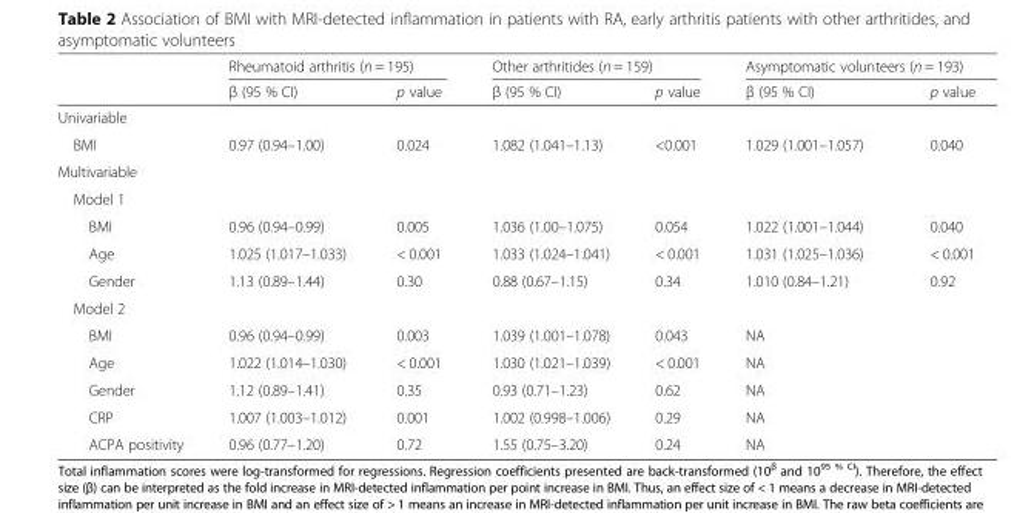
<table><thead><tr><td rowspan="2"></td><td colspan="2">Rheumatoid arthritis (n = 195)</td><td colspan="2">Other arthritides (n = 159)</td><td colspan="2">Asymptomatic volunteers (n = 193)</td></tr><tr><td>β (95 % CI)</td><td>p value</td><td>β (95 % CI)</td><td>p value</td><td>β (95 % CI)</td><td>p value</td></tr></thead><tbody><tr><td colspan="7">Univariable</td></tr><tr><td>BMI</td><td>0.97 (0.94–1.00)</td><td>0.024</td><td>1.082 (1.041–1.13)</td><td>&lt;0.001</td><td>1.029 (1.001–1.057)</td><td>0.040</td></tr><tr><td colspan="7">Multivariable</td></tr><tr><td colspan="7">Model 1</td></tr><tr><td>BMI</td><td>0.96 (0.94–0.99)</td><td>0.005</td><td>1.036 (1.00–1.075)</td><td>0.054</td><td>1.022 (1.001–1.044)</td><td>0.040</td></tr><tr><td>Age</td><td>1.025 (1.017–1.033)</td><td>&lt; 0.001</td><td>1.033 (1.024–1.041)</td><td>&lt; 0.001</td><td>1.031 (1.025–1.036)</td><td>&lt; 0.001</td></tr><tr><td>Gender</td><td>1.13 (0.89–1.44)</td><td>0.30</td><td>0.88 (0.67–1.15)</td><td>0.34</td><td>1.010 (0.84–1.21)</td><td>0.92</td></tr><tr><td colspan="7">Model 2</td></tr><tr><td>BMI</td><td>0.96 (0.94–0.99)</td><td>0.003</td><td>1.039 (1.001–1.078)</td><td>0.043</td><td>NA</td><td></td></tr><tr><td>Age</td><td>1.022 (1.014–1.030)</td><td>&lt; 0.001</td><td>1.030 (1.021–1.039)</td><td>&lt; 0.001</td><td>NA</td><td></td></tr><tr><td>Gender</td><td>1.12 (0.89–1.41)</td><td>0.35</td><td>0.93 (0.71–1.23)</td><td>0.62</td><td>NA</td><td></td></tr><tr><td>CRP</td><td>1.007 (1.003–1.012)</td><td>0.001</td><td>1.002 (0.998–1.006)</td><td>0.29</td><td>NA</td><td></td></tr><tr><td>ACPA positivity</td><td>0.96 (0.77–1.20)</td><td>0.72</td><td>1.55 (0.75–3.20)</td><td>0.24</td><td>NA</td><td></td></tr></tbody></table>